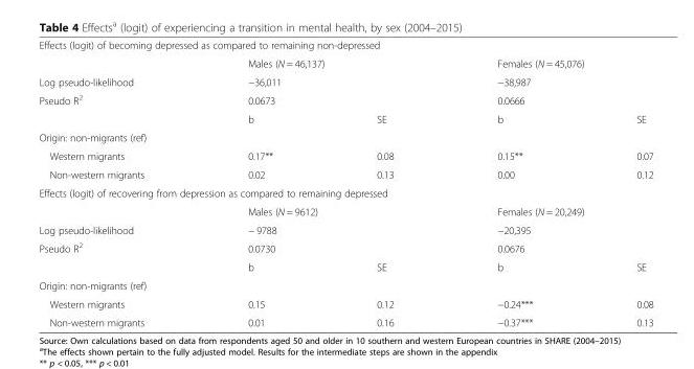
<table><tbody><tr><td colspan="5">Effects (logit) of becoming depressed as compared to remaining non-depressed</td></tr><tr><td></td><td colspan="2">Males (N = 46,137)</td><td colspan="2">Females (N = 45,076)</td></tr><tr><td>Log pseudo-likelihood</td><td colspan="2">−36,011</td><td colspan="2">−38,987</td></tr><tr><td rowspan="2">Pseudo R<sup>2</sup></td><td colspan="2">0.0673</td><td colspan="2">0.0666</td></tr><tr><td>b</td><td>SE</td><td>b</td><td>SE</td></tr><tr><td colspan="5">Origin: non-migrants (ref)</td></tr><tr><td>Western migrants</td><td>0.17**</td><td>0.08</td><td>0.15**</td><td>0.07</td></tr><tr><td>Non-western migrants</td><td>0.02</td><td>0.13</td><td>0.00</td><td>0.12</td></tr><tr><td colspan="5">Effects (logit) of recovering from depression as compared to remaining depressed</td></tr><tr><td></td><td colspan="2">Males (N = 9612)</td><td colspan="2">Females (N = 20,249)</td></tr><tr><td>Log pseudo-likelihood</td><td colspan="2">− 9788</td><td colspan="2">−20,395</td></tr><tr><td rowspan="2">Pseudo R<sup>2</sup></td><td colspan="2">0.0730</td><td colspan="2">0.0676</td></tr><tr><td>b</td><td>SE</td><td>b</td><td>SE</td></tr><tr><td colspan="5">Origin: non-migrants (ref)</td></tr><tr><td>Western migrants</td><td>0.15</td><td>0.12</td><td>−0.24***</td><td>0.08</td></tr><tr><td>Non-western migrants</td><td>0.01</td><td>0.16</td><td>−0.37***</td><td>0.13</td></tr></tbody></table>